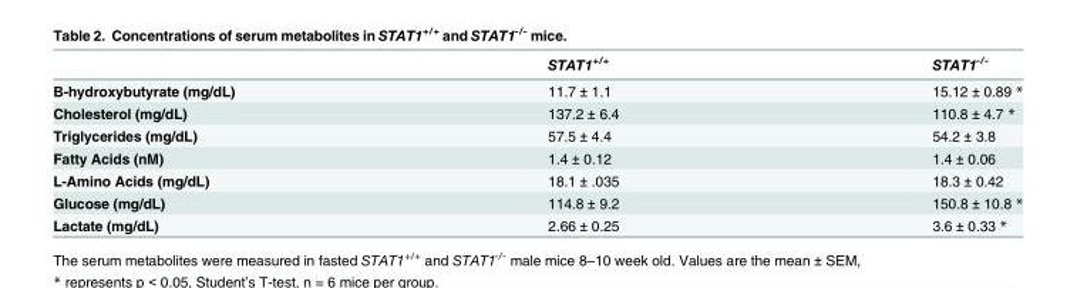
<table><thead><tr><td></td><td>STAT1<sup>+/+</sup></td><td>STAT1<sup>-/-</sup></td></tr></thead><tbody><tr><td>Β-hydroxybutyrate (mg/dL)</td><td>11.7 ± 1.1</td><td>15.12 ± 0.89 *</td></tr><tr><td>Cholesterol (mg/dL)</td><td>137.2 ± 6.4</td><td>110.8 ± 4.7 *</td></tr><tr><td>Triglycerides (mg/dL)</td><td>57.5 ± 4.4</td><td>54.2 ± 3.8</td></tr><tr><td>Fatty Acids (nM)</td><td>1.4 ± 0.12</td><td>1.4 ± 0.06</td></tr><tr><td>L-Amino Acids (mg/dL)</td><td>18.1 ± .035</td><td>18.3 ± 0.42</td></tr><tr><td>Glucose (mg/dL)</td><td>114.8 ± 9.2</td><td>150.8 ± 10.8 *</td></tr><tr><td>Lactate (mg/dL)</td><td>2.66 ± 0.25</td><td>3.6 ± 0.33 *</td></tr></tbody></table>